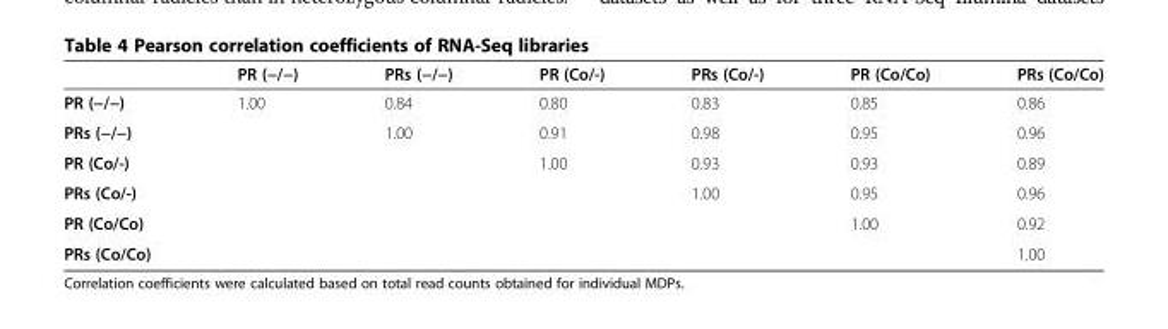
<table><thead><tr><td></td><td>PR (−/−)</td><td>PRs (−/−)</td><td>PR (Co/-)</td><td>PRs (Co/-)</td><td>PR (Co/Co)</td><td>PRs (Co/Co)</td></tr></thead><tbody><tr><td>PR (−/−)</td><td>1.00</td><td>0.84</td><td>0.80</td><td>0.83</td><td>0.85</td><td>0.86</td></tr><tr><td>PRs (−/−)</td><td></td><td>1.00</td><td>0.91</td><td>0.98</td><td>0.95</td><td>0.96</td></tr><tr><td>PR (Co/-)</td><td></td><td></td><td>1.00</td><td>0.93</td><td>0.93</td><td>0.89</td></tr><tr><td>PRs (Co/-)</td><td></td><td></td><td></td><td>1.00</td><td>0.95</td><td>0.96</td></tr><tr><td>PR (Co/Co)</td><td></td><td></td><td></td><td></td><td>1.00</td><td>0.92</td></tr><tr><td>PRs (Co/Co)</td><td></td><td></td><td></td><td></td><td></td><td>1.00</td></tr></tbody></table>